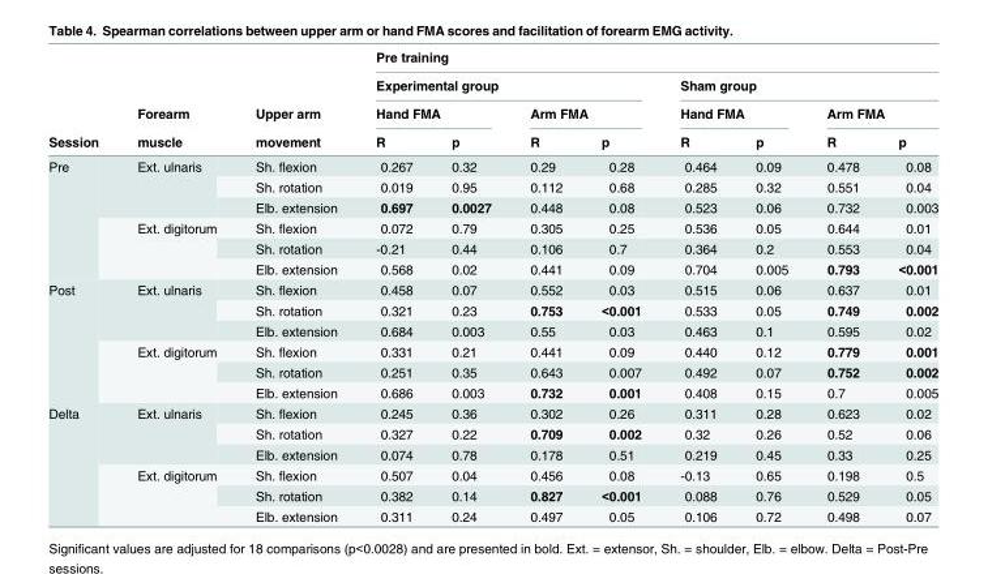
<table><thead><tr><td rowspan="4">Session</td><td rowspan="4">Forearm muscle</td><td rowspan="4">Upper arm movement</td><td colspan="8">Pre training</td></tr><tr><td colspan="4">Experimental group</td><td colspan="4">Sham group</td></tr><tr><td colspan="2">Hand FMA</td><td colspan="2">Arm FMA</td><td colspan="2">Hand FMA</td><td colspan="2">Arm FMA</td></tr><tr><td>R</td><td>p</td><td>R</td><td>p</td><td>R</td><td>p</td><td>R</td><td>p</td></tr></thead><tbody><tr><td rowspan="6">Pre</td><td rowspan="3">Ext. ulnaris</td><td>Sh. flexion</td><td>0.267</td><td>0.32</td><td>0.29</td><td>0.28</td><td>0.464</td><td>0.09</td><td>0.478</td><td>0.08</td></tr><tr><td>Sh. rotation</td><td>0.019</td><td>0.95</td><td>0.112</td><td>0.68</td><td>0.285</td><td>0.32</td><td>0.551</td><td>0.04</td></tr><tr><td>Elb. extension</td><td>0.697</td><td>0.0027</td><td>0.448</td><td>0.08</td><td>0.523</td><td>0.06</td><td>0.732</td><td>0.003</td></tr><tr><td rowspan="3">Ext. digitorum</td><td>Sh. flexion</td><td>0.072</td><td>0.79</td><td>0.305</td><td>0.25</td><td>0.536</td><td>0.05</td><td>0.644</td><td>0.01</td></tr><tr><td>Sh. rotation</td><td>-0.21</td><td>0.44</td><td>0.106</td><td>0.7</td><td>0.364</td><td>0.2</td><td>0.553</td><td>0.04</td></tr><tr><td>Elb. extension</td><td>0.568</td><td>0.02</td><td>0.441</td><td>0.09</td><td>0.704</td><td>0.005</td><td>0.793</td><td>&lt;0.001</td></tr><tr><td rowspan="6">Post</td><td rowspan="3">Ext. ulnaris</td><td>Sh. flexion</td><td>0.458</td><td>0.07</td><td>0.552</td><td>0.03</td><td>0.515</td><td>0.06</td><td>0.637</td><td>0.01</td></tr><tr><td>Sh. rotation</td><td>0.321</td><td>0.23</td><td>0.753</td><td>&lt;0.001</td><td>0.533</td><td>0.05</td><td>0.749</td><td>0.002</td></tr><tr><td>Elb. extension</td><td>0.684</td><td>0.003</td><td>0.55</td><td>0.03</td><td>0.463</td><td>0.1</td><td>0.595</td><td>0.02</td></tr><tr><td rowspan="3">Ext. digitorum</td><td>Sh. flexion</td><td>0.331</td><td>0.21</td><td>0.441</td><td>0.09</td><td>0.440</td><td>0.12</td><td>0.779</td><td>0.001</td></tr><tr><td>Sh. rotation</td><td>0.251</td><td>0.35</td><td>0.643</td><td>0.007</td><td>0.492</td><td>0.07</td><td>0.752</td><td>0.002</td></tr><tr><td>Elb. extension</td><td>0.686</td><td>0.003</td><td>0.732</td><td>0.001</td><td>0.408</td><td>0.15</td><td>0.7</td><td>0.005</td></tr><tr><td rowspan="6">Delta</td><td rowspan="3">Ext. ulnaris</td><td>Sh. flexion</td><td>0.245</td><td>0.36</td><td>0.302</td><td>0.26</td><td>0.311</td><td>0.28</td><td>0.623</td><td>0.02</td></tr><tr><td>Sh. rotation</td><td>0.327</td><td>0.22</td><td>0.709</td><td>0.002</td><td>0.32</td><td>0.26</td><td>0.52</td><td>0.06</td></tr><tr><td>Elb. extension</td><td>0.074</td><td>0.78</td><td>0.178</td><td>0.51</td><td>0.219</td><td>0.45</td><td>0.33</td><td>0.25</td></tr><tr><td rowspan="3">Ext. digitorum</td><td>Sh. flexion</td><td>0.507</td><td>0.04</td><td>0.456</td><td>0.08</td><td>-0.13</td><td>0.65</td><td>0.198</td><td>0.5</td></tr><tr><td>Sh. rotation</td><td>0.382</td><td>0.14</td><td>0.827</td><td>&lt;0.001</td><td>0.088</td><td>0.76</td><td>0.529</td><td>0.05</td></tr><tr><td>Elb. extension</td><td>0.311</td><td>0.24</td><td>0.497</td><td>0.05</td><td>0.106</td><td>0.72</td><td>0.498</td><td>0.07</td></tr></tbody></table>